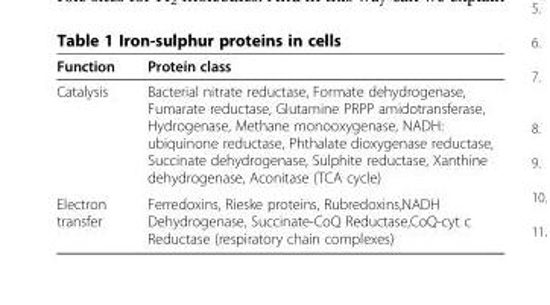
<table><thead><tr><td>Function</td><td>Protein class</td></tr></thead><tbody><tr><td>Catalysis</td><td>Bacterial nitrate reductase, Formate dehydrogenase, Fumarate reductase, Glutamine PRPP amidotransferase, Hydrogenase, Methane monooxygenase, NADH: ubiquinone reductase, Phthalate dioxygenase reductase, Succinate dehydrogenase, Sulphite reductase, Xanthine dehydrogenase, Aconitase (TCA cycle)</td></tr><tr><td>Electron transfer</td><td>Ferredoxins, Rieske proteins, Rubredoxins,NADH Dehydrogenase, Succinate-CoQ Reductase,CoQ-cyt c Reductase (respiratory chain complexes)</td></tr></tbody></table>